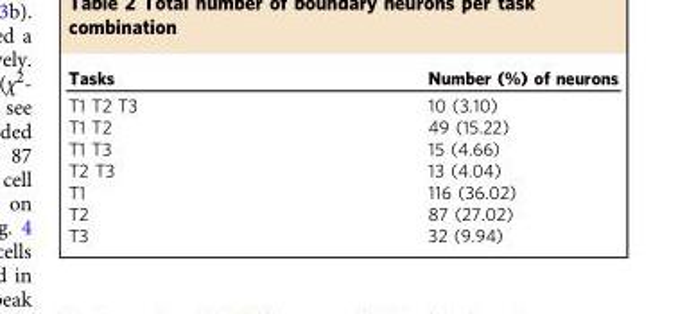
<table><thead><tr><td>Tasks</td><td>Number (%) of neurons</td></tr></thead><tbody><tr><td>T1 T2 T3</td><td>10 (3.10)</td></tr><tr><td>T1 T2</td><td>49 (15.22)</td></tr><tr><td>T1 T3</td><td>15 (4.66)</td></tr><tr><td>T2 T3</td><td>13 (4.04)</td></tr><tr><td>T1</td><td>116 (36.02)</td></tr><tr><td>T2</td><td>87 (27.02)</td></tr><tr><td>T3</td><td>32 (9.94)</td></tr></tbody></table>